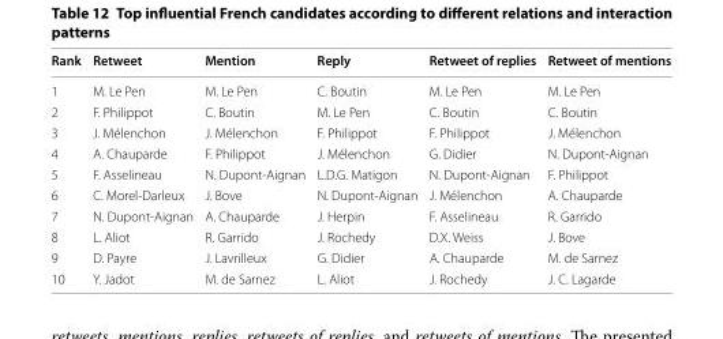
<table><thead><tr><td>Rank</td><td>Retweet</td><td>Mention</td><td>Reply</td><td>Retweet of replies</td><td>Retweet of mentions</td></tr></thead><tbody><tr><td>1</td><td>M. Le Pen</td><td>M. Le Pen</td><td>C. Boutin</td><td>M. Le Pen</td><td>M. Le Pen</td></tr><tr><td>2</td><td>F. Philippot</td><td>C. Boutin</td><td>M. Le Pen</td><td>C. Boutin</td><td>C. Boutin</td></tr><tr><td>3</td><td>J. Mélenchon</td><td>J. Mélenchon</td><td>F. Philippot</td><td>F. Philippot</td><td>J. Mélenchon</td></tr><tr><td>4</td><td>A. Chauparde</td><td>F. Philippot</td><td>J. Mélenchon</td><td>G. Didier</td><td>N. Dupont-Aignan</td></tr><tr><td>5</td><td>F. Asselineau</td><td>N. Dupont-Aignan</td><td>L.D.G. Matigon</td><td>N. Dupont-Aignan</td><td>F. Philippot</td></tr><tr><td>6</td><td>C. Morel-Darleux</td><td>J. Bove</td><td>N. Dupont-Aignan</td><td>J. Mélenchon</td><td>A. Chauparde</td></tr><tr><td>7</td><td>N. Dupont-Aignan</td><td>A. Chauparde</td><td>J. Herpin</td><td>F. Asselineau</td><td>R. Garrido</td></tr><tr><td>8</td><td>L. Aliot</td><td>R. Garrido</td><td>J. Rochedy</td><td>D.X. Weiss</td><td>J. Bove</td></tr><tr><td>9</td><td>D. Payre</td><td>J. Lavrilleux</td><td>G. Didier</td><td>A. Chauparde</td><td>M. de Sarnez</td></tr><tr><td>10</td><td>Y. Jadot</td><td>M. de Sarnez</td><td>L. Aliot</td><td>J. Rochedy</td><td>J. C. Lagarde</td></tr></tbody></table>